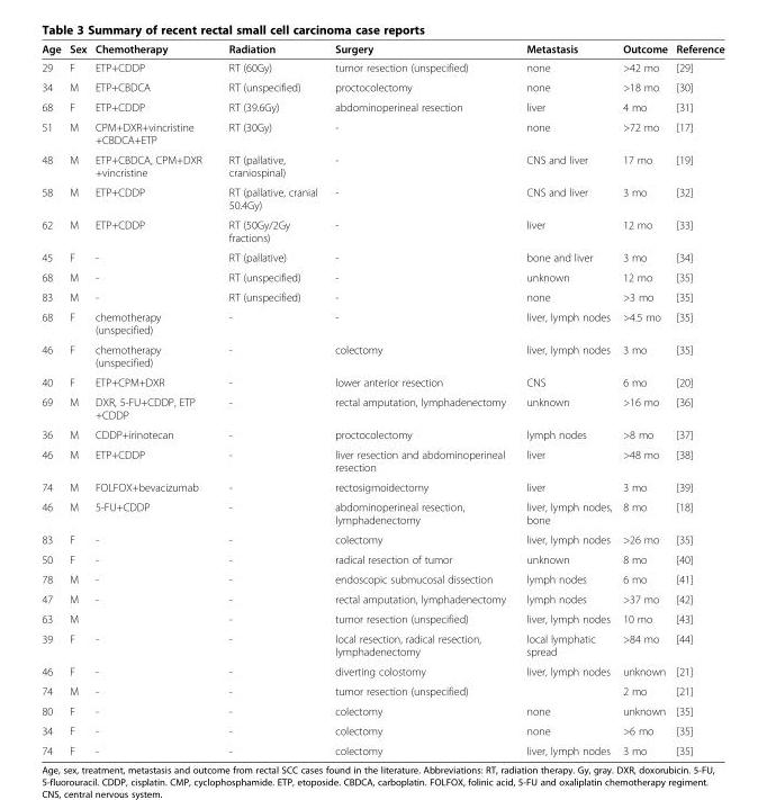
<table><thead><tr><td>Age</td><td>Sex</td><td>Chemotherapy</td><td>Radiation</td><td>Surgery</td><td>Metastasis</td><td>Outcome</td><td>Reference</td></tr></thead><tbody><tr><td>29</td><td>F</td><td>ETP+CDDP</td><td>RT (60Gy)</td><td>tumor resection (unspecified)</td><td>none</td><td>&gt;42 mo</td><td>[29]</td></tr><tr><td>34</td><td>M</td><td>ETP+CBDCA</td><td>RT (unspecified)</td><td>proctocolectomy</td><td>none</td><td>&gt;18 mo</td><td>[30]</td></tr><tr><td>68</td><td>F</td><td>ETP+CDDP</td><td>RT (39.6Gy)</td><td>abdominoperineal resection</td><td>liver</td><td>4 mo</td><td>[31]</td></tr><tr><td>51</td><td>M</td><td>CPM+DXR+vincristine +CBDCA+ETP</td><td>RT (30Gy)</td><td>-</td><td>none</td><td>&gt;72 mo</td><td>[17]</td></tr><tr><td>48</td><td>M</td><td>ETP+CBDCA, CPM+DXR +vincristine</td><td>RT (pallative, craniospinal)</td><td>-</td><td>CNS and liver</td><td>17 mo</td><td>[19]</td></tr><tr><td>58</td><td>M</td><td>ETP+CDDP</td><td>RT (pallative, cranial 50.4Gy)</td><td>-</td><td>CNS and liver</td><td>3 mo</td><td>[32]</td></tr><tr><td>62</td><td>M</td><td>ETP+CDDP</td><td>RT (50Gy/2Gy fractions)</td><td>-</td><td>liver</td><td>12 mo</td><td>[33]</td></tr><tr><td>45</td><td>F</td><td>-</td><td>RT (pallative)</td><td>-</td><td>bone and liver</td><td>3 mo</td><td>[34]</td></tr><tr><td>68</td><td>M</td><td>-</td><td>RT (unspecified)</td><td>-</td><td>unknown</td><td>12 mo</td><td>[35]</td></tr><tr><td>83</td><td>M</td><td>-</td><td>RT (unspecified)</td><td>-</td><td>none</td><td>&gt;3 mo</td><td>[35]</td></tr><tr><td>68</td><td>F</td><td>chemotherapy (unspecified)</td><td>-</td><td>-</td><td>liver, lymph nodes</td><td>&gt;4.5 mo</td><td>[35]</td></tr><tr><td>46</td><td>F</td><td>chemotherapy (unspecified)</td><td>-</td><td>colectomy</td><td>liver, lymph nodes</td><td>3 mo</td><td>[35]</td></tr><tr><td>40</td><td>F</td><td>ETP+CPM+DXR</td><td>-</td><td>lower anterior resection</td><td>CNS</td><td>6 mo</td><td>[20]</td></tr><tr><td>69</td><td>M</td><td>DXR, 5-FU+CDDP, ETP +CDDP</td><td>-</td><td>rectal amputation, lymphadenectomy</td><td>unknown</td><td>&gt;16 mo</td><td>[36]</td></tr><tr><td>36</td><td>M</td><td>CDDP+irinotecan</td><td>-</td><td>proctocolectomy</td><td>lymph nodes</td><td>&gt;8 mo</td><td>[37]</td></tr><tr><td>46</td><td>M</td><td>ETP+CDDP</td><td>-</td><td>liver resection and abdominoperineal resection</td><td>liver</td><td>&gt;48 mo</td><td>[38]</td></tr><tr><td>74</td><td>M</td><td>FOLFOX+bevacizumab</td><td>-</td><td>rectosigmoidectomy</td><td>liver</td><td>3 mo</td><td>[39]</td></tr><tr><td>46</td><td>M</td><td>5-FU+CDDP</td><td>-</td><td>abdominoperineal resection, lymphadenectomy</td><td>liver, lymph nodes, bone</td><td>8 mo</td><td>[18]</td></tr><tr><td>83</td><td>F</td><td>-</td><td>-</td><td>colectomy</td><td>liver, lymph nodes</td><td>&gt;26 mo</td><td>[35]</td></tr><tr><td>50</td><td>F</td><td>-</td><td>-</td><td>radical resection of tumor</td><td>unknown</td><td>8 mo</td><td>[40]</td></tr><tr><td>78</td><td>M</td><td>-</td><td>-</td><td>endoscopic submucosal dissection</td><td>lymph nodes</td><td>6 mo</td><td>[41]</td></tr><tr><td>47</td><td>M</td><td>-</td><td>-</td><td>rectal amputation, lymphadenectomy</td><td>lymph nodes</td><td>&gt;37 mo</td><td>[42]</td></tr><tr><td>63</td><td>M</td><td></td><td>-</td><td>tumor resection (unspecified)</td><td>liver, lymph nodes</td><td>10 mo</td><td>[43]</td></tr><tr><td>39</td><td>F</td><td>-</td><td>-</td><td>local resection, radical resection, lymphadenectomy</td><td>local lymphatic spread</td><td>&gt;84 mo</td><td>[44]</td></tr><tr><td>46</td><td>F</td><td>-</td><td>-</td><td>diverting colostomy</td><td>liver, lymph nodes</td><td>unknown</td><td>[21]</td></tr><tr><td>74</td><td>M</td><td>-</td><td>-</td><td>tumor resection (unspecified)</td><td></td><td>2 mo</td><td>[21]</td></tr><tr><td>80</td><td>F</td><td>-</td><td>-</td><td>colectomy</td><td>none</td><td>unknown</td><td>[35]</td></tr><tr><td>34</td><td>F</td><td>-</td><td>-</td><td>colectomy</td><td>none</td><td>&gt;6 mo</td><td>[35]</td></tr><tr><td>74</td><td>F</td><td>-</td><td>-</td><td>colectomy</td><td>liver, lymph nodes</td><td>3 mo</td><td>[35]</td></tr></tbody></table>